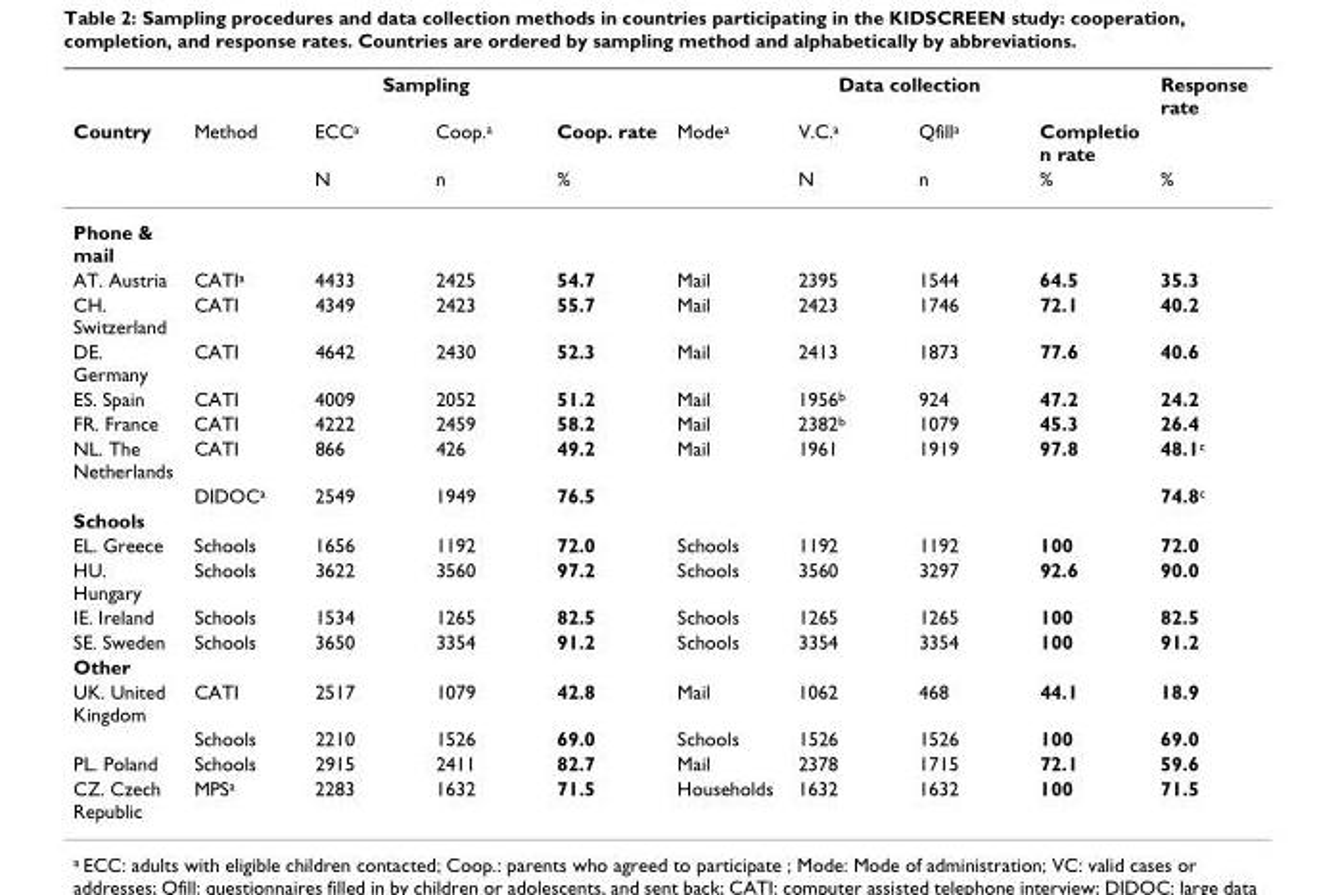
<table><thead><tr><td rowspan="3">Country</td><td colspan="4">Sampling</td><td colspan="4">Data collection</td><td rowspan="3">Response rate %</td></tr><tr><td rowspan="2">Method</td><td rowspan="2">ECCa N</td><td rowspan="2">Coop.a n</td><td rowspan="2">Coop. rate %</td><td rowspan="2">Mode<sup>a</sup></td><td rowspan="2">V.C.a N</td><td rowspan="2">Qfilla n</td><td rowspan="2">Completio n rate %</td></tr><tr></tr></thead><tbody><tr><td colspan="10">Phone &amp; mail</td></tr><tr><td>AT. Austria</td><td>CATI<sup>a</sup></td><td>4433</td><td>2425</td><td>54.7</td><td>Mail</td><td>2395</td><td>1544</td><td>64.5</td><td>35.3</td></tr><tr><td>CH. Switzerland</td><td>CATI</td><td>4349</td><td>2423</td><td>55.7</td><td>Mail</td><td>2423</td><td>1746</td><td>72.1</td><td>40.2</td></tr><tr><td>DE. Germany</td><td>CATI</td><td>4642</td><td>2430</td><td>52.3</td><td>Mail</td><td>2413</td><td>1873</td><td>77.6</td><td>40.6</td></tr><tr><td>ES. Spain</td><td>CATI</td><td>4009</td><td>2052</td><td>51.2</td><td>Mail</td><td>1956<sup>b</sup></td><td>924</td><td>47.2</td><td>24.2</td></tr><tr><td>FR. France</td><td>CATI</td><td>4222</td><td>2459</td><td>58.2</td><td>Mail</td><td>2382<sup>b</sup></td><td>1079</td><td>45.3</td><td>26.4</td></tr><tr><td rowspan="2">NL. The Netherlands</td><td>CATI</td><td>866</td><td>426</td><td>49.2</td><td>Mail</td><td>1961</td><td>1919</td><td>97.8</td><td>48.1<sup>c</sup></td></tr><tr><td>DIDOC<sup>a</sup></td><td>2549</td><td>1949</td><td>76.5</td><td></td><td></td><td></td><td></td><td>74.8<sup>c</sup></td></tr><tr><td colspan="10">Schools</td></tr><tr><td>EL. Greece</td><td>Schools</td><td>1656</td><td>1192</td><td>72.0</td><td>Schools</td><td>1192</td><td>1192</td><td>100</td><td>72.0</td></tr><tr><td>HU. Hungary</td><td>Schools</td><td>3622</td><td>3560</td><td>97.2</td><td>Schools</td><td>3560</td><td>3297</td><td>92.6</td><td>90.0</td></tr><tr><td>IE. Ireland</td><td>Schools</td><td>1534</td><td>1265</td><td>82.5</td><td>Schools</td><td>1265</td><td>1265</td><td>100</td><td>82.5</td></tr><tr><td>SE. Sweden</td><td>Schools</td><td>3650</td><td>3354</td><td>91.2</td><td>Schools</td><td>3354</td><td>3354</td><td>100</td><td>91.2</td></tr><tr><td colspan="10">Other</td></tr><tr><td rowspan="2">UK. United Kingdom</td><td>CATI</td><td>2517</td><td>1079</td><td>42.8</td><td>Mail</td><td>1062</td><td>468</td><td>44.1</td><td>18.9</td></tr><tr><td>Schools</td><td>2210</td><td>1526</td><td>69.0</td><td>Schools</td><td>1526</td><td>1526</td><td>100</td><td>69.0</td></tr><tr><td>PL. Poland</td><td>Schools</td><td>2915</td><td>2411</td><td>82.7</td><td>Mail</td><td>2378</td><td>1715</td><td>72.1</td><td>59.6</td></tr><tr><td>CZ. Czech Republic</td><td>MPS<sup>a</sup></td><td>2283</td><td>1632</td><td>71.5</td><td>Households</td><td>1632</td><td>1632</td><td>100</td><td>71.5</td></tr></tbody></table>